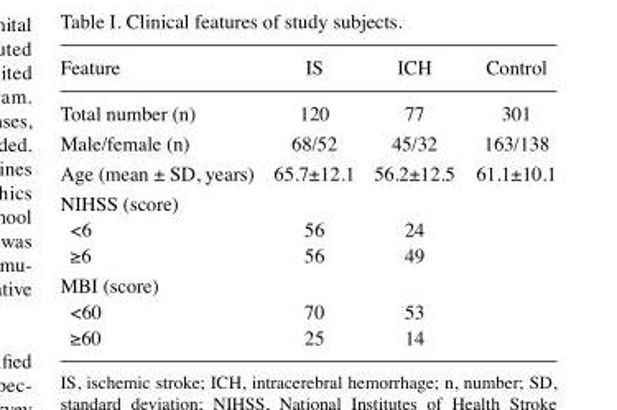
<table><thead><tr><td>Feature</td><td>IS</td><td>ICH</td><td>Control</td></tr></thead><tbody><tr><td>Total number (n)</td><td>120</td><td>77</td><td>301</td></tr><tr><td>Male/female (n)</td><td>68/52</td><td>45/32</td><td>163/138</td></tr><tr><td>Age (mean ± SD, years)</td><td>65.7±12.1</td><td>56.2±12.5</td><td>61.1±10.1</td></tr><tr><td colspan="4">NIHSS (score)</td></tr><tr><td>&lt;6</td><td>56</td><td>24</td><td></td></tr><tr><td>≥6</td><td>56</td><td>49</td><td></td></tr><tr><td colspan="4">MBI (score)</td></tr><tr><td>&lt;60</td><td>70</td><td>53</td><td></td></tr><tr><td>≥60</td><td>25</td><td>14</td><td></td></tr></tbody></table>